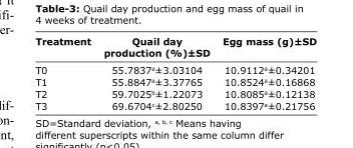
<table><thead><tr><td>Treatment</td><td>Quail day production (%)±SD</td><td>Egg mass (g)±SD</td></tr></thead><tbody><tr><td>T0</td><td>55.7837<sup>a</sup>±3.03104</td><td>10.9112<sup>a</sup>±0.34201</td></tr><tr><td>T1</td><td>55.8847<sup>a</sup>±3.37765</td><td>10.8524<sup>a</sup>±0.16868</td></tr><tr><td>T2</td><td>59.7025<sup>b</sup>±1.22073</td><td>10.8085<sup>a</sup>±0.12138</td></tr><tr><td>T3</td><td>69.6704<sup>c</sup>±2.80250</td><td>10.8397<sup>a</sup>±0.21756</td></tr></tbody></table>